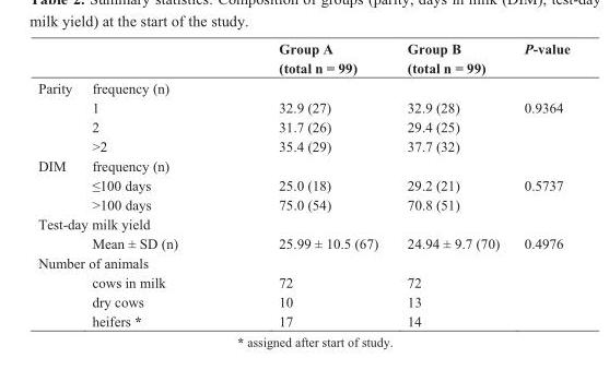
<table><thead><tr><td></td><td></td><td>Group A (total n = 99)</td><td>Group B (total n = 99)</td><td>P-value</td></tr></thead><tbody><tr><td rowspan="4">Parity</td><td>frequency (n)</td><td></td><td></td><td></td></tr><tr><td>1</td><td>32.9 (27)</td><td>32.9 (28)</td><td>0.9364</td></tr><tr><td>2</td><td>31.7 (26)</td><td>29.4 (25)</td><td></td></tr><tr><td>&gt;2</td><td>35.4 (29)</td><td>37.7 (32)</td><td></td></tr><tr><td rowspan="3">DIM</td><td>frequency (n)</td><td></td><td></td><td></td></tr><tr><td>≤100 days</td><td>25.0 (18)</td><td>29.2 (21)</td><td>0.5737</td></tr><tr><td>&gt;100 days</td><td>75.0 (54)</td><td>70.8 (51)</td><td></td></tr><tr><td colspan="5">Test-day milk yield</td></tr><tr><td></td><td>Mean ± SD (n)</td><td>25.99 ± 10.5 (67)</td><td>24.94 ± 9.7 (70)</td><td>0.4976</td></tr><tr><td colspan="5">Number of animals</td></tr><tr><td></td><td>cows in milk</td><td>72</td><td>72</td><td></td></tr><tr><td></td><td>dry cows</td><td>10</td><td>13</td><td></td></tr><tr><td></td><td>heifers *</td><td>17</td><td>14</td><td></td></tr></tbody></table>